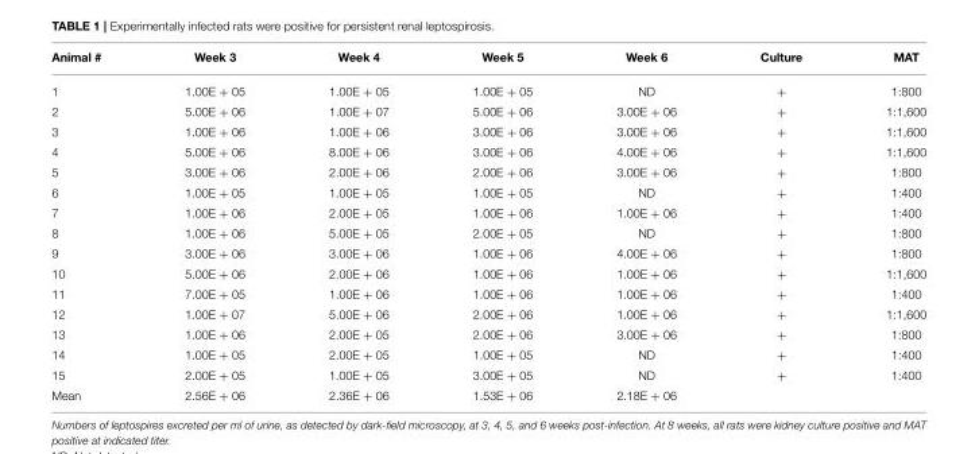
<table><thead><tr><td>Animal #</td><td>Week 3</td><td>Week 4</td><td>Week 5</td><td>Week 6</td><td>Culture</td><td>MAT</td></tr></thead><tbody><tr><td>1</td><td>1.00E + 05</td><td>1.00E + 05</td><td>1.00E + 05</td><td>ND</td><td>+</td><td>1:800</td></tr><tr><td>2</td><td>5.00E + 06</td><td>1.00E + 07</td><td>5.00E + 06</td><td>3.00E + 06</td><td>+</td><td>1:1,600</td></tr><tr><td>3</td><td>1.00E + 06</td><td>1.00E + 06</td><td>3.00E + 06</td><td>3.00E + 06</td><td>+</td><td>1:1,600</td></tr><tr><td>4</td><td>5.00E + 06</td><td>8.00E + 06</td><td>3.00E + 06</td><td>4.00E + 06</td><td>+</td><td>1:1,600</td></tr><tr><td>5</td><td>3.00E + 06</td><td>2.00E + 06</td><td>2.00E + 06</td><td>3.00E + 06</td><td>+</td><td>1:800</td></tr><tr><td>6</td><td>1.00E + 05</td><td>1.00E + 05</td><td>1.00E + 05</td><td>ND</td><td>+</td><td>1:400</td></tr><tr><td>7</td><td>1.00E + 06</td><td>2.00E + 05</td><td>1.00E + 06</td><td>1.00E + 06</td><td>+</td><td>1:400</td></tr><tr><td>8</td><td>1.00E + 06</td><td>5.00E + 05</td><td>2.00E + 05</td><td>ND</td><td>+</td><td>1:800</td></tr><tr><td>9</td><td>3.00E + 06</td><td>3.00E + 06</td><td>1.00E + 06</td><td>4.00E + 06</td><td>+</td><td>1:800</td></tr><tr><td>10</td><td>5.00E + 06</td><td>2.00E + 06</td><td>1.00E + 06</td><td>1.00E + 06</td><td>+</td><td>1:1,600</td></tr><tr><td>11</td><td>7.00E + 05</td><td>1.00E + 06</td><td>1.00E + 06</td><td>1.00E + 06</td><td>+</td><td>1:400</td></tr><tr><td>12</td><td>1.00E + 07</td><td>5.00E + 06</td><td>2.00E + 06</td><td>1.00E + 06</td><td>+</td><td>1:1,600</td></tr><tr><td>13</td><td>1.00E + 06</td><td>2.00E + 05</td><td>2.00E + 06</td><td>3.00E + 06</td><td>+</td><td>1:800</td></tr><tr><td>14</td><td>1.00E + 05</td><td>2.00E + 05</td><td>1.00E + 05</td><td>ND</td><td>+</td><td>1:400</td></tr><tr><td>15</td><td>2.00E + 05</td><td>1.00E + 05</td><td>3.00E + 05</td><td>ND</td><td>+</td><td>1:400</td></tr><tr><td>Mean</td><td>2.56E + 06</td><td>2.36E + 06</td><td>1.53E + 06</td><td>2.18E + 06</td><td></td><td></td></tr></tbody></table>